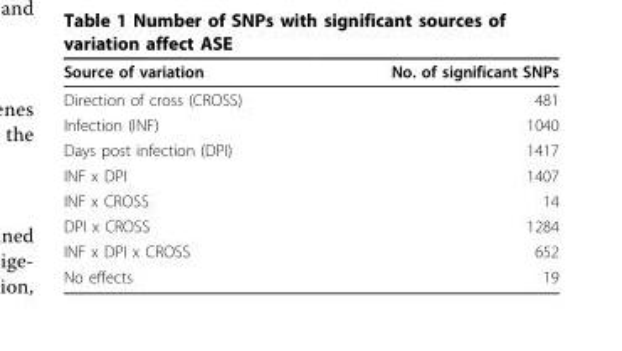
<table><thead><tr><td>Source of variation</td><td>No. of significant SNPs</td></tr></thead><tbody><tr><td>Direction of cross (CROSS)</td><td>481</td></tr><tr><td>Infection (INF)</td><td>1040</td></tr><tr><td>Days post infection (DPI)</td><td>1417</td></tr><tr><td>INF x DPI</td><td>1407</td></tr><tr><td>INF x CROSS</td><td>14</td></tr><tr><td>DPI x CROSS</td><td>1284</td></tr><tr><td>INF x DPI x CROSS</td><td>652</td></tr><tr><td>No effects</td><td>19</td></tr></tbody></table>